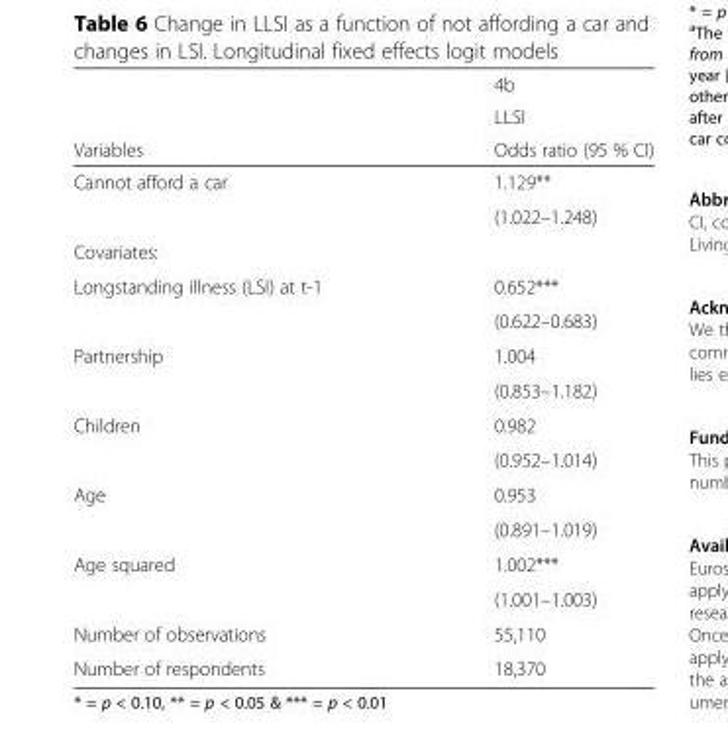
<table><thead><tr><td rowspan="3">Variables</td><td rowspan="3">4b LLSI Odds ratio (95 % CI)</td></tr><tr></tr><tr></tr></thead><tbody><tr><td rowspan="2">Cannot afford a car</td><td>1.129**</td></tr><tr><td>(1.022–1.248)</td></tr><tr><td colspan="2">Covariates:</td></tr><tr><td rowspan="2">Longstanding illness (LSI) at t-1</td><td>0.652***</td></tr><tr><td>(0.622–0.683)</td></tr><tr><td rowspan="2">Partnership</td><td>1.004</td></tr><tr><td>(0.853–1.182)</td></tr><tr><td rowspan="2">Children</td><td>0.982</td></tr><tr><td>(0.952–1.014)</td></tr><tr><td rowspan="2">Age</td><td>0.953</td></tr><tr><td>(0.891–1.019)</td></tr><tr><td rowspan="2">Age squared</td><td>1.002***</td></tr><tr><td>(1.001–1.003)</td></tr><tr><td>Number of observations</td><td>55,110</td></tr><tr><td>Number of respondents</td><td>18,370</td></tr></tbody></table>